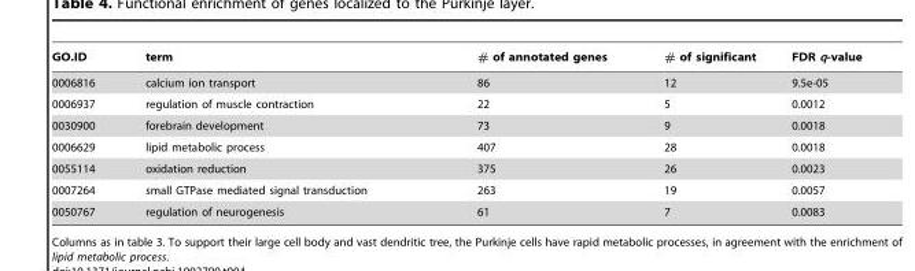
<table><thead><tr><td>GO.ID</td><td>term</td><td># of annotated genes</td><td># of significant</td><td>FDR q-value</td></tr></thead><tbody><tr><td>0006816</td><td>calcium ion transport</td><td>86</td><td>12</td><td>9.5e-05</td></tr><tr><td>0006937</td><td>regulation of muscle contraction</td><td>22</td><td>5</td><td>0.0012</td></tr><tr><td>0030900</td><td>forebrain development</td><td>73</td><td>9</td><td>0.0018</td></tr><tr><td>0006629</td><td>lipid metabolic process</td><td>407</td><td>28</td><td>0.0018</td></tr><tr><td>0055114</td><td>oxidation reduction</td><td>375</td><td>26</td><td>0.0023</td></tr><tr><td>0007264</td><td>small GTPase mediated signal transduction</td><td>263</td><td>19</td><td>0.0057</td></tr><tr><td>0050767</td><td>regulation of neurogenesis</td><td>61</td><td>7</td><td>0.0083</td></tr></tbody></table>